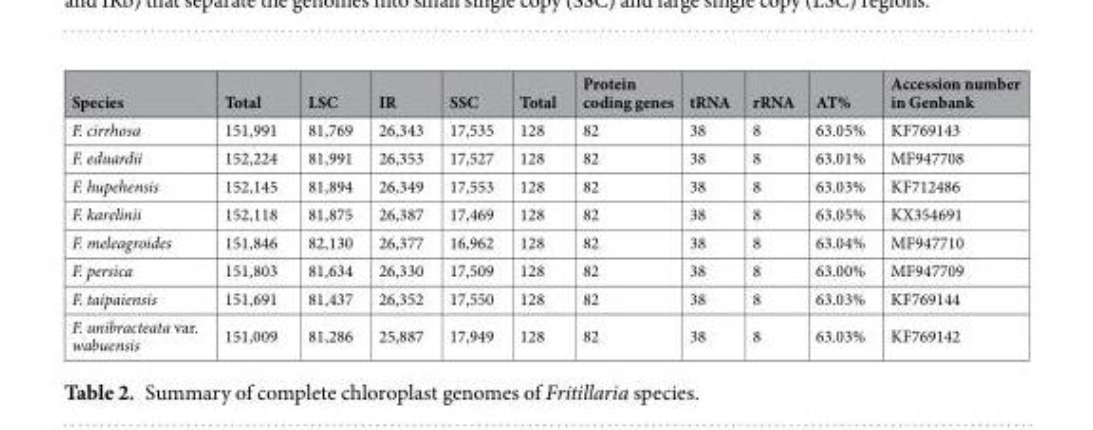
<table><thead><tr><td>Species</td><td>Total</td><td>LSC</td><td>IR</td><td>SSC</td><td>Total</td><td>Protein coding genes</td><td>tRNA</td><td>rRNA</td><td>AT%</td><td>Accession number in Genbank</td></tr></thead><tbody><tr><td>F. cirrhosa</td><td>151,991</td><td>81,769</td><td>26,343</td><td>17,535</td><td>128</td><td>82</td><td>38</td><td>8</td><td>63.05%</td><td>KF769143</td></tr><tr><td>F. eduardii</td><td>152,224</td><td>81,991</td><td>26,353</td><td>17,527</td><td>128</td><td>82</td><td>38</td><td>8</td><td>63.01%</td><td>MF947708</td></tr><tr><td>F. hupehensis</td><td>152,145</td><td>81,894</td><td>26,349</td><td>17,553</td><td>128</td><td>82</td><td>38</td><td>8</td><td>63.03%</td><td>KF712486</td></tr><tr><td>F. karelinii</td><td>152,118</td><td>81,875</td><td>26,387</td><td>17,469</td><td>128</td><td>82</td><td>38</td><td>8</td><td>63.05%</td><td>KX354691</td></tr><tr><td>F. meleagroides</td><td>151,846</td><td>82,130</td><td>26,377</td><td>16,962</td><td>128</td><td>82</td><td>38</td><td>8</td><td>63.04%</td><td>MF947710</td></tr><tr><td>F. persica</td><td>151,803</td><td>81,634</td><td>26,330</td><td>17,509</td><td>128</td><td>82</td><td>38</td><td>8</td><td>63.00%</td><td>MF947709</td></tr><tr><td>F. taipaiensis</td><td>151,691</td><td>81,437</td><td>26,352</td><td>17,550</td><td>128</td><td>82</td><td>38</td><td>8</td><td>63.03%</td><td>KF769144</td></tr><tr><td>F. unibracteata var. wabuensis</td><td>151,009</td><td>81,286</td><td>25,887</td><td>17,949</td><td>128</td><td>82</td><td>38</td><td>8</td><td>63.03%</td><td>KF769142</td></tr></tbody></table>